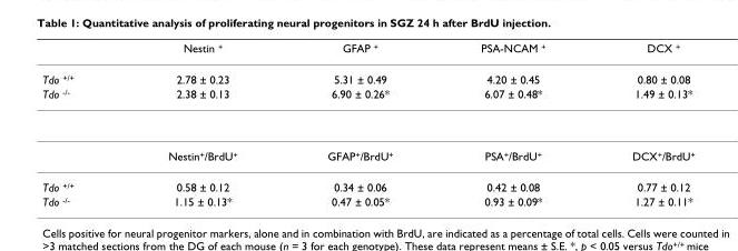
<table><thead><tr><td></td><td>Nestin +</td><td>GFAP +</td><td>PSA-NCAM +</td><td>DCX +</td></tr></thead><tbody><tr><td>Tdo +/+</td><td>2.78 ± 0.23</td><td>5.31 ± 0.49</td><td>4.20 ± 0.45</td><td>0.80 ± 0.08</td></tr><tr><td rowspan="2">Tdo -/-</td><td>2.38 ± 0.13</td><td>6.90 ± 0.26*</td><td>6.07 ± 0.48*</td><td>1.49 ± 0.13*</td></tr><tr><td>Nestin+/BrdU+</td><td>GFAP+/BrdU+</td><td>PSA+/BrdU+</td><td>DCX+/BrdU+</td></tr><tr><td>Tdo +/+</td><td>0.58 ± 0.12</td><td>0.34 ± 0.06</td><td>0.42 ± 0.08</td><td>0.77 ± 0.12</td></tr><tr><td>Tdo -/-</td><td>1.15 ± 0.13*</td><td>0.47 ± 0.05*</td><td>0.93 ± 0.09*</td><td>1.27 ± 0.11*</td></tr></tbody></table>